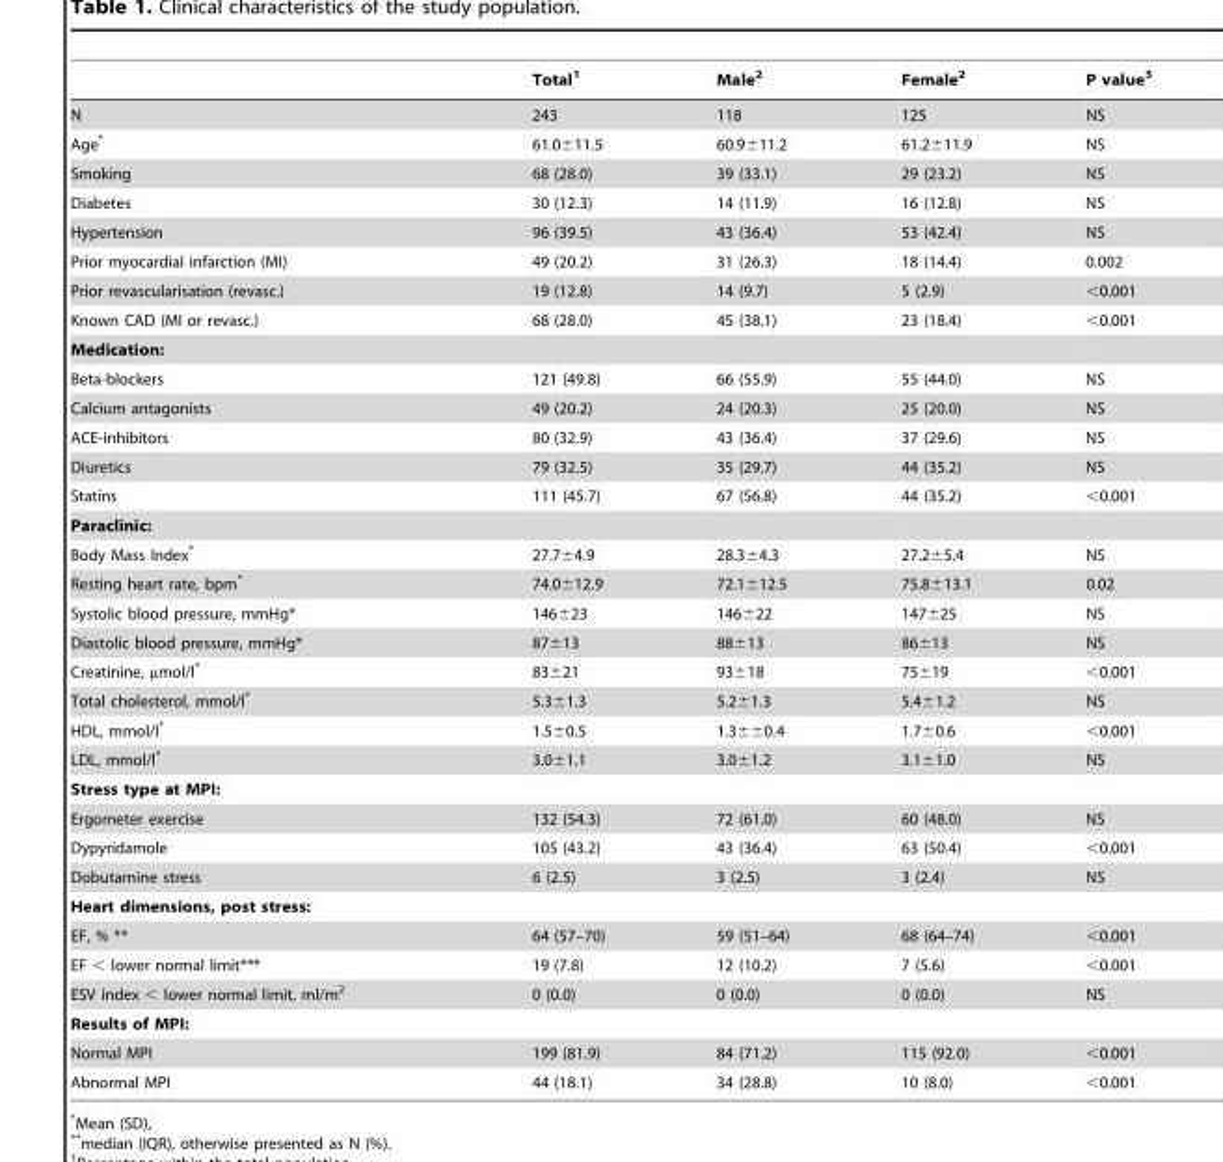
<table><thead><tr><td></td><td>Total<sup>1</sup></td><td>Male<sup>2</sup></td><td>Female<sup>2</sup></td><td>P value<sup>3</sup></td></tr></thead><tbody><tr><td>N</td><td>243</td><td>118</td><td>125</td><td>NS</td></tr><tr><td>Age*</td><td>61.0±11.5</td><td>60.9±11.2</td><td>61.2±11.9</td><td>NS</td></tr><tr><td>Smoking</td><td>68 (28.0)</td><td>39 (33.1)</td><td>29 (23.2)</td><td>NS</td></tr><tr><td>Diabetes</td><td>30 (12.3)</td><td>14 (11.9)</td><td>16 (12.8)</td><td>NS</td></tr><tr><td>Hypertension</td><td>96 (39.5)</td><td>43 (36.4)</td><td>53 (42.4)</td><td>NS</td></tr><tr><td>Prior myocardial infarction (MI)</td><td>49 (20.2)</td><td>31 (26.3)</td><td>18 (14.4)</td><td>0.002</td></tr><tr><td>Prior revascularisation (revasc.)</td><td>19 (12.8)</td><td>14 (9.7)</td><td>5 (2.9)</td><td>&lt;0.001</td></tr><tr><td>Known CAD (MI or revasc.)</td><td>68 (28.0)</td><td>45 (38.1)</td><td>23 (18.4)</td><td>&lt;0.001</td></tr><tr><td colspan="5">Medication:</td></tr><tr><td>Beta-blockers</td><td>121 (49.8)</td><td>66 (55.9)</td><td>55 (44.0)</td><td>NS</td></tr><tr><td>Calcium antagonists</td><td>49 (20.2)</td><td>24 (20.3)</td><td>25 (20.0)</td><td>NS</td></tr><tr><td>ACE-inhibitors</td><td>80 (32.9)</td><td>43 (36.4)</td><td>37 (29.6)</td><td>NS</td></tr><tr><td>Diuretics</td><td>79 (32.5)</td><td>35 (29.7)</td><td>44 (35.2)</td><td>NS</td></tr><tr><td>Statins</td><td>111 (45.7)</td><td>67 (56.8)</td><td>44 (35.2)</td><td>&lt;0.001</td></tr><tr><td colspan="5">Paraclinic:</td></tr><tr><td>Body Mass Index*</td><td>27.7±4.9</td><td>28.3±4.3</td><td>27.2±5.4</td><td>NS</td></tr><tr><td>Resting heart rate, bpm*</td><td>74.0±12.9</td><td>72.1±12.5</td><td>75.8±13.1</td><td>0.02</td></tr><tr><td>Systolic blood pressure, mmHg*</td><td>146±23</td><td>146±22</td><td>147±25</td><td>NS</td></tr><tr><td>Diastolic blood pressure, mmHg*</td><td>87±13</td><td>88±13</td><td>86±13</td><td>NS</td></tr><tr><td>Creatinine, µmol/l*</td><td>83±21</td><td>93±18</td><td>75±19</td><td>&lt;0.001</td></tr><tr><td>Total cholesterol, mmol/l*</td><td>5.3±1.3</td><td>5.2±1.3</td><td>5.4±1.2</td><td>NS</td></tr><tr><td>HDL, mmol/l*</td><td>1.5±0.5</td><td>1.3±±0.4</td><td>1.7±0.6</td><td>&lt;0.001</td></tr><tr><td>LDL, mmol/l*</td><td>3.0±1.1</td><td>3.0±1.2</td><td>3.1±1.0</td><td>NS</td></tr><tr><td colspan="5">Stress type at MPI:</td></tr><tr><td>Ergometer exercise</td><td>132 (54.3)</td><td>72 (61.0)</td><td>60 (48.0)</td><td>NS</td></tr><tr><td>Dypyridamole</td><td>105 (43.2)</td><td>43 (36.4)</td><td>63 (50.4)</td><td>&lt;0.001</td></tr><tr><td>Dobutamine stress</td><td>6 (2.5)</td><td>3 (2.5)</td><td>3 (2.4)</td><td>NS</td></tr><tr><td colspan="5">Heart dimensions, post stress:</td></tr><tr><td>EF, % **</td><td>64 (57–70)</td><td>59 (51–64)</td><td>68 (64–74)</td><td>&lt;0.001</td></tr><tr><td>EF &lt; lower normal limit***</td><td>19 (7.8)</td><td>12 (10.2)</td><td>7 (5.6)</td><td>&lt;0.001</td></tr><tr><td>ESV index &lt; lower normal limit, ml/m<sup>2</sup></td><td>0 (0.0)</td><td>0 (0.0)</td><td>0 (0.0)</td><td>NS</td></tr><tr><td colspan="5">Results of MPI:</td></tr><tr><td>Normal MPI</td><td>199 (81.9)</td><td>84 (71.2)</td><td>115 (92.0)</td><td>&lt;0.001</td></tr><tr><td>Abnormal MPI</td><td>44 (18.1)</td><td>34 (28.8)</td><td>10 (8.0)</td><td>&lt;0.001</td></tr></tbody></table>